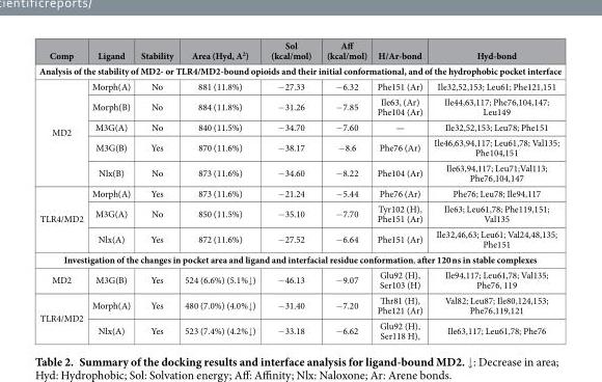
<table><thead><tr><td>Comp</td><td>Ligand</td><td>Stability</td><td>Area (Hyd, A<sup>2</sup>)</td><td>Sol (kcal/mol)</td><td>Aff (kcal/mol)</td><td>H/Ar-bond</td><td>Hyd-bond</td></tr></thead><tbody><tr><td colspan="8">Analysis of the stability of MD2- or TLR4/MD2-bound opioids and their initial conformational, and of the hydrophobic pocket interface</td></tr><tr><td rowspan="5">MD2</td><td>Morph(A)</td><td>No</td><td>881 (11.8%)</td><td>− 27.33</td><td>− 6.32</td><td>Phe151 (Ar)</td><td>Ile32,52,153; Leu61; Phe121,151</td></tr><tr><td>Morph(B)</td><td>No</td><td>884 (11.8%)</td><td>− 31.26</td><td>− 7.85</td><td>Ile63, (Ar) Phe104 (Ar)</td><td>Ile44,63,117; Phe76,104,147; Leu149</td></tr><tr><td>M3G(A)</td><td>No</td><td>840 (11.5%)</td><td>− 34.70</td><td>− 7.60</td><td>—</td><td>Ile32,52,153; Leu78; Phe151</td></tr><tr><td>M3G(B)</td><td>Yes</td><td>870 (11.6%)</td><td>− 38.17</td><td>− 8.6</td><td>Phe76 (Ar)</td><td>Ile46,63,94,117; Leu61,78; Val135; Phe104,151</td></tr><tr><td>Nlx(B)</td><td>No</td><td>873 (11.6%)</td><td>− 34.60</td><td>− 8.22</td><td>Phe104 (Ar)</td><td>Ile63,94,117; Leu71;Val113; Phe76,104,147</td></tr><tr><td rowspan="3">TLR4/MD2</td><td>Morph(A)</td><td>Yes</td><td>873 (11.6%)</td><td>− 21.24</td><td>− 5.44</td><td>Phe76 (Ar)</td><td>Phe76; Leu78; Ile94,117</td></tr><tr><td>M3G(A)</td><td>No</td><td>850 (11.5%)</td><td>− 35.10</td><td>− 7.70</td><td>Tyr102 (H), Phe151 (Ar)</td><td>Ile63; Leu61,78; Phe119,151; Val135</td></tr><tr><td>Nlx(A)</td><td>Yes</td><td>872 (11.6%)</td><td>− 27.52</td><td>− 6.64</td><td>Phe151 (Ar)</td><td>Ile32,46,63; Leu61; Val24,48,135; Phe151</td></tr><tr><td colspan="8">Investigation of the changes in pocket area and ligand and interfacial residue conformation, after 120 ns in stable complexes</td></tr><tr><td>MD2</td><td>M3G(B)</td><td>Yes</td><td>524 (6.6%) (5.1%↓ )</td><td>− 46.13</td><td>− 9.07</td><td>Glu92 (H), Ser103 (H)</td><td>Ile94,117; Leu61,78; Val135; Phe76, 119</td></tr><tr><td rowspan="2">TLR4/MD2</td><td>Morph(A)</td><td>Yes</td><td>480 (7.0%) (4.0%↓ )</td><td>− 31.40</td><td>− 7.20</td><td>Thr81 (H), Phe121 (Ar)</td><td>Val82; Leu87; Ile80,124,153; Phe76,119,121</td></tr><tr><td>Nlx(A)</td><td>Yes</td><td>523 (7.4%) (4.2%↓ )</td><td>− 33.18</td><td>− 6.62</td><td>Glu92 (H), Ser118 H),</td><td>Ile63,117; Leu61,78; Phe76</td></tr></tbody></table>